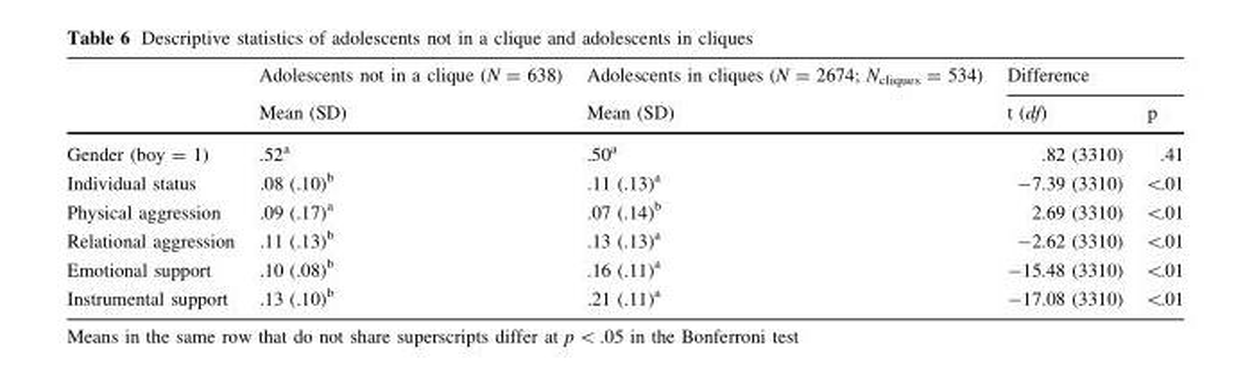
<table><thead><tr><td rowspan="2"></td><td rowspan="2">Adolescents not in a clique (N = 638) Mean (SD)</td><td rowspan="2">Adolescents in cliques (N = 2674; N<sub>cliques</sub> = 534) Mean (SD)</td><td colspan="2">Difference</td></tr><tr><td>t (df)</td><td>p</td></tr></thead><tbody><tr><td>Gender (boy = 1)</td><td>.52<sup>a</sup></td><td>.50<sup>a</sup></td><td>.82 (3310)</td><td>.41</td></tr><tr><td>Individual status</td><td>.08 (.10)<sup>b</sup></td><td>.11 (.13)<sup>a</sup></td><td>-7.39 (3310)</td><td>&lt;.01</td></tr><tr><td>Physical aggression</td><td>.09 (.17)<sup>a</sup></td><td>.07 (.14)<sup>b</sup></td><td>2.69 (3310)</td><td>&lt;.01</td></tr><tr><td>Relational aggression</td><td>.11 (.13)<sup>b</sup></td><td>.13 (.13)<sup>a</sup></td><td>-2.62 (3310)</td><td>&lt;.01</td></tr><tr><td>Emotional support</td><td>.10 (.08)<sup>b</sup></td><td>.16 (.11)<sup>a</sup></td><td>-15.48 (3310)</td><td>&lt;.01</td></tr><tr><td>Instrumental support</td><td>.13 (.10)<sup>b</sup></td><td>.21 (.11)<sup>a</sup></td><td>-17.08 (3310)</td><td>&lt;.01</td></tr></tbody></table>